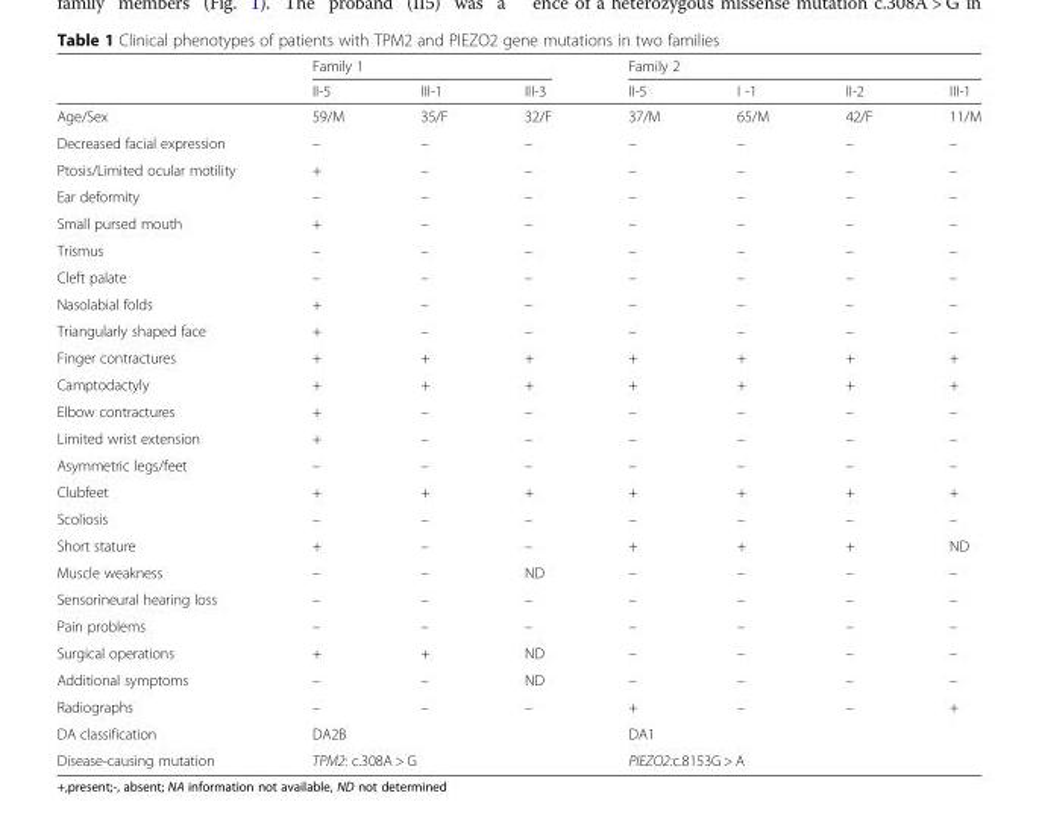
<table><thead><tr><td rowspan="2"></td><td colspan="3">Family 1</td><td colspan="4">Family 2</td></tr><tr><td>II-5</td><td>III-1</td><td>III-3</td><td>II-5</td><td>I -1</td><td>II-2</td><td>III-1</td></tr></thead><tbody><tr><td>Age/Sex</td><td>59/M</td><td>35/F</td><td>32/F</td><td>37/M</td><td>65/M</td><td>42/F</td><td>11/M</td></tr><tr><td>Decreased facial expression</td><td>–</td><td>–</td><td>–</td><td>–</td><td>–</td><td>–</td><td>–</td></tr><tr><td>Ptosis/Limited ocular motility</td><td>+</td><td>–</td><td>–</td><td>–</td><td>–</td><td>–</td><td>–</td></tr><tr><td>Ear deformity</td><td>–</td><td>–</td><td>–</td><td>–</td><td>–</td><td>–</td><td>–</td></tr><tr><td>Small pursed mouth</td><td>+</td><td>–</td><td>–</td><td>–</td><td>–</td><td>–</td><td>–</td></tr><tr><td>Trismus</td><td>–</td><td>–</td><td>–</td><td>–</td><td>–</td><td>–</td><td>–</td></tr><tr><td>Cleft palate</td><td>–</td><td>–</td><td>–</td><td>–</td><td>–</td><td>–</td><td>–</td></tr><tr><td>Nasolabial folds</td><td>+</td><td>–</td><td>–</td><td>–</td><td>–</td><td>–</td><td>–</td></tr><tr><td>Triangularly shaped face</td><td>+</td><td>–</td><td>–</td><td>–</td><td>–</td><td>–</td><td>–</td></tr><tr><td>Finger contractures</td><td>+</td><td>+</td><td>+</td><td>+</td><td>+</td><td>+</td><td>+</td></tr><tr><td>Camptodactyly</td><td>+</td><td>+</td><td>+</td><td>+</td><td>+</td><td>+</td><td>+</td></tr><tr><td>Elbow contractures</td><td>+</td><td>–</td><td>–</td><td>–</td><td>–</td><td>–</td><td>–</td></tr><tr><td>Limited wrist extension</td><td>+</td><td>–</td><td>–</td><td>–</td><td>–</td><td>–</td><td>–</td></tr><tr><td>Asymmetric legs/feet</td><td>–</td><td>–</td><td>–</td><td>–</td><td>–</td><td>–</td><td>–</td></tr><tr><td>Clubfeet</td><td>+</td><td>+</td><td>+</td><td>+</td><td>+</td><td>+</td><td>+</td></tr><tr><td>Scoliosis</td><td>–</td><td>–</td><td>–</td><td>–</td><td>–</td><td>–</td><td>–</td></tr><tr><td>Short stature</td><td>+</td><td>–</td><td>–</td><td>+</td><td>+</td><td>+</td><td>ND</td></tr><tr><td>Muscle weakness</td><td>–</td><td>–</td><td>ND</td><td>–</td><td>–</td><td>–</td><td>–</td></tr><tr><td>Sensorineural hearing loss</td><td>–</td><td>–</td><td>–</td><td>–</td><td>–</td><td>–</td><td>–</td></tr><tr><td>Pain problems</td><td>–</td><td>–</td><td>–</td><td>–</td><td>–</td><td>–</td><td>–</td></tr><tr><td>Surgical operations</td><td>+</td><td>+</td><td>ND</td><td>–</td><td>–</td><td>–</td><td>–</td></tr><tr><td>Additional symptoms</td><td>–</td><td>–</td><td>ND</td><td>–</td><td>–</td><td>–</td><td>–</td></tr><tr><td>Radiographs</td><td>–</td><td>–</td><td>–</td><td>+</td><td>–</td><td>–</td><td>+</td></tr><tr><td>DA classification</td><td colspan="3">DA2B</td><td colspan="4">DA1</td></tr><tr><td>Disease-causing mutation</td><td colspan="3">TPM2: c.308A &gt; G</td><td colspan="4">PIEZO2:c.8153G &gt; A</td></tr></tbody></table>